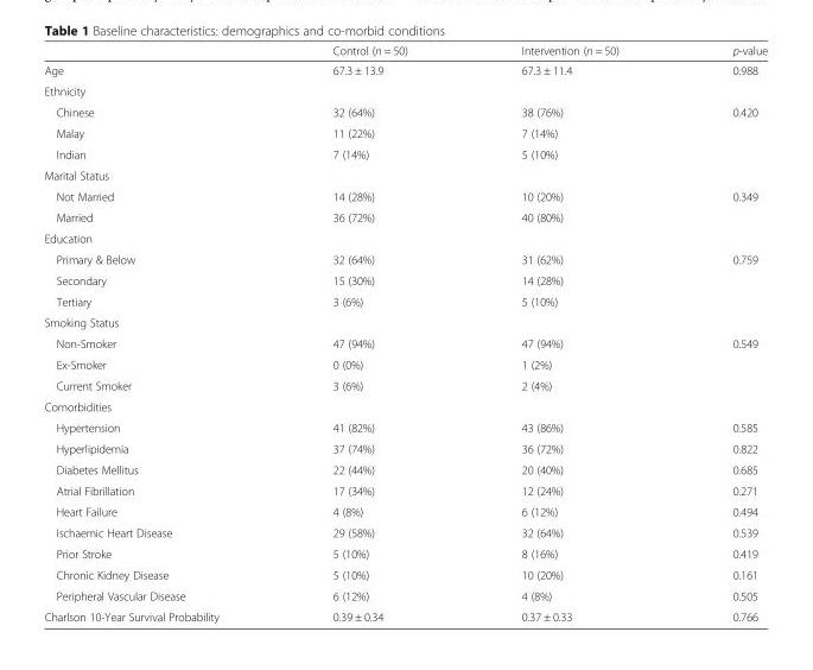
<table><thead><tr><td></td><td>Control (n = 50)</td><td>Intervention (n = 50)</td><td>p-value</td></tr></thead><tbody><tr><td>Age</td><td>67.3 ± 13.9</td><td>67.3 ± 11.4</td><td>0.988</td></tr><tr><td colspan="4">Ethnicity</td></tr><tr><td>Chinese</td><td>32 (64%)</td><td>38 (76%)</td><td>0.420</td></tr><tr><td>Malay</td><td>11 (22%)</td><td>7 (14%)</td><td></td></tr><tr><td>Indian</td><td>7 (14%)</td><td>5 (10%)</td><td></td></tr><tr><td colspan="4">Marital Status</td></tr><tr><td>Not Married</td><td>14 (28%)</td><td>10 (20%)</td><td>0.349</td></tr><tr><td>Married</td><td>36 (72%)</td><td>40 (80%)</td><td></td></tr><tr><td colspan="4">Education</td></tr><tr><td>Primary &amp; Below</td><td>32 (64%)</td><td>31 (62%)</td><td>0.759</td></tr><tr><td>Secondary</td><td>15 (30%)</td><td>14 (28%)</td><td></td></tr><tr><td>Tertiary</td><td>3 (6%)</td><td>5 (10%)</td><td></td></tr><tr><td colspan="4">Smoking Status</td></tr><tr><td>Non-Smoker</td><td>47 (94%)</td><td>47 (94%)</td><td>0.549</td></tr><tr><td>Ex-Smoker</td><td>0 (0%)</td><td>1 (2%)</td><td></td></tr><tr><td>Current Smoker</td><td>3 (6%)</td><td>2 (4%)</td><td></td></tr><tr><td colspan="4">Comorbidities</td></tr><tr><td>Hypertension</td><td>41 (82%)</td><td>43 (86%)</td><td>0.585</td></tr><tr><td>Hyperlipidemia</td><td>37 (74%)</td><td>36 (72%)</td><td>0.822</td></tr><tr><td>Diabetes Mellitus</td><td>22 (44%)</td><td>20 (40%)</td><td>0.685</td></tr><tr><td>Atrial Fibrillation</td><td>17 (34%)</td><td>12 (24%)</td><td>0.271</td></tr><tr><td>Heart Failure</td><td>4 (8%)</td><td>6 (12%)</td><td>0.494</td></tr><tr><td>Ischaemic Heart Disease</td><td>29 (58%)</td><td>32 (64%)</td><td>0.539</td></tr><tr><td>Prior Stroke</td><td>5 (10%)</td><td>8 (16%)</td><td>0.419</td></tr><tr><td>Chronic Kidney Disease</td><td>5 (10%)</td><td>10 (20%)</td><td>0.161</td></tr><tr><td>Peripheral Vascular Disease</td><td>6 (12%)</td><td>4 (8%)</td><td>0.505</td></tr><tr><td>Charlson 10-Year Survival Probability</td><td>0.39 ± 0.34</td><td>0.37 ± 0.33</td><td>0.766</td></tr></tbody></table>